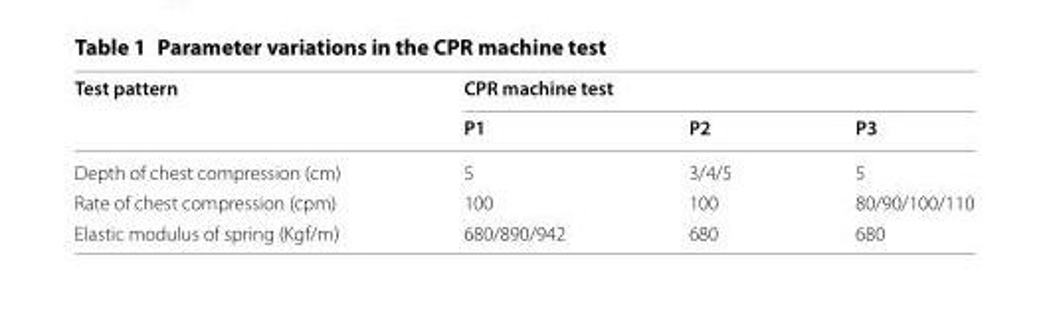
<table><thead><tr><td rowspan="2">Test pattern</td><td colspan="3">CPR machine test</td></tr><tr><td>P1</td><td>P2</td><td>P3</td></tr></thead><tbody><tr><td>Depth of chest compression (cm)</td><td>5</td><td>3/4/5</td><td>5</td></tr><tr><td>Rate of chest compression (cpm)</td><td>100</td><td>100</td><td>80/90/100/110</td></tr><tr><td>Elastic modulus of spring (Kgf/m)</td><td>680/890/942</td><td>680</td><td>680</td></tr></tbody></table>